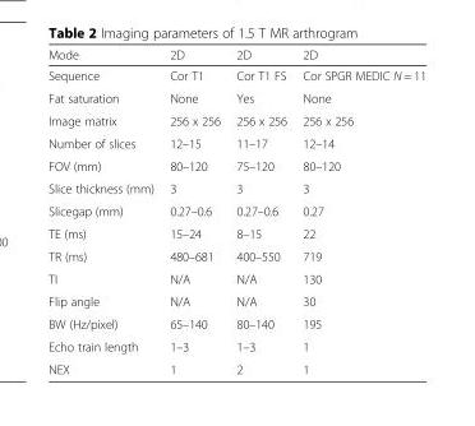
<table><thead><tr><td>Mode</td><td>2D</td><td>2D</td><td>2D</td></tr></thead><tbody><tr><td>Sequence</td><td>Cor T1</td><td>Cor T1 FS</td><td>Cor SPGR MEDIC N = 11</td></tr><tr><td>Fat saturation</td><td>None</td><td>Yes</td><td>None</td></tr><tr><td>Image matrix</td><td>256 x 256</td><td>256 x 256</td><td>256 x 256</td></tr><tr><td>Number of slices</td><td>12–15</td><td>11–17</td><td>12–14</td></tr><tr><td>FOV (mm)</td><td>80–120</td><td>75–120</td><td>80–120</td></tr><tr><td>Slice thickness (mm)</td><td>3</td><td>3</td><td>3</td></tr><tr><td>Slicegap (mm)</td><td>0.27–0.6</td><td>0.27–0.6</td><td>0.27</td></tr><tr><td>TE (ms)</td><td>15–24</td><td>8–15</td><td>22</td></tr><tr><td>TR (ms)</td><td>480–681</td><td>400–550</td><td>719</td></tr><tr><td>TI</td><td>N/A</td><td>N/A</td><td>130</td></tr><tr><td>Flip angle</td><td>N/A</td><td>N/A</td><td>30</td></tr><tr><td>BW (Hz/pixel)</td><td>65–140</td><td>80–140</td><td>195</td></tr><tr><td>Echo train length</td><td>1–3</td><td>1–3</td><td>1</td></tr><tr><td>NEX</td><td>1</td><td>2</td><td>1</td></tr></tbody></table>